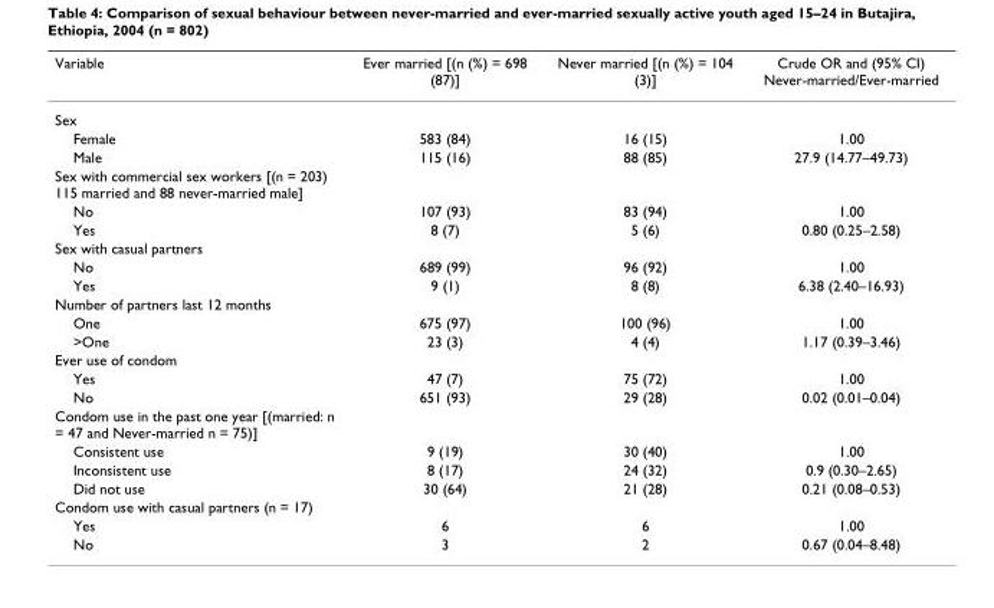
<table><thead><tr><td>Variable</td><td>Ever married [(n (%) = 698 (87)]</td><td>Never married [(n (%) = 104 (3)]</td><td>Crude OR and (95% CI) Never-married/Ever-married</td></tr></thead><tbody><tr><td colspan="4">Sex</td></tr><tr><td>Female</td><td>583 (84)</td><td>16 (15)</td><td>1.00</td></tr><tr><td>Male</td><td>115 (16)</td><td>88 (85)</td><td>27.9 (14.77–49.73)</td></tr><tr><td colspan="4">Sex with commercial sex workers [(n = 203) 115 married and 88 never-married male]</td></tr><tr><td>No</td><td>107 (93)</td><td>83 (94)</td><td>1.00</td></tr><tr><td>Yes</td><td>8 (7)</td><td>5 (6)</td><td>0.80 (0.25–2.58)</td></tr><tr><td colspan="4">Sex with casual partners</td></tr><tr><td>No</td><td>689 (99)</td><td>96 (92)</td><td>1.00</td></tr><tr><td>Yes</td><td>9 (1)</td><td>8 (8)</td><td>6.38 (2.40–16.93)</td></tr><tr><td colspan="4">Number of partners last 12 months</td></tr><tr><td>One</td><td>675 (97)</td><td>100 (96)</td><td>1.00</td></tr><tr><td>&gt;One</td><td>23 (3)</td><td>4 (4)</td><td>1.17 (0.39–3.46)</td></tr><tr><td colspan="4">Ever use of condom</td></tr><tr><td>Yes</td><td>47 (7)</td><td>75 (72)</td><td>1.00</td></tr><tr><td>No</td><td>651 (93)</td><td>29 (28)</td><td>0.02 (0.01–0.04)</td></tr><tr><td colspan="4">Condom use in the past one year [(married: n = 47 and Never-married n = 75)]</td></tr><tr><td>Consistent use</td><td>9 (19)</td><td>30 (40)</td><td>1.00</td></tr><tr><td>Inconsistent use</td><td>8 (17)</td><td>24 (32)</td><td>0.9 (0.30–2.65)</td></tr><tr><td>Did not use</td><td>30 (64)</td><td>21 (28)</td><td>0.21 (0.08–0.53)</td></tr><tr><td colspan="4">Condom use with casual partners (n = 17)</td></tr><tr><td>Yes</td><td>6</td><td>6</td><td>1.00</td></tr><tr><td>No</td><td>3</td><td>2</td><td>0.67 (0.04–8.48)</td></tr></tbody></table>